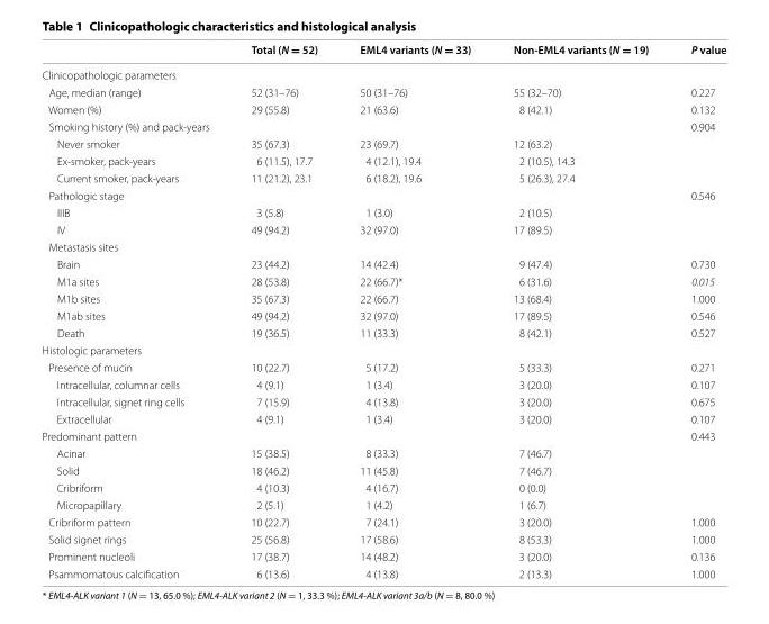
<table><thead><tr><td></td><td>Total (N = 52)</td><td>EML4 variants (N = 33)</td><td>Non‑EML4 variants (N = 19)</td><td>P value</td></tr></thead><tbody><tr><td colspan="5">Clinicopathologic parameters</td></tr><tr><td>Age, median (range)</td><td>52 (31–76)</td><td>50 (31–76)</td><td>55 (32–70)</td><td>0.227</td></tr><tr><td>Women (%)</td><td>29 (55.8)</td><td>21 (63.6)</td><td>8 (42.1)</td><td>0.132</td></tr><tr><td>Smoking history (%) and pack-years</td><td></td><td></td><td></td><td>0.904</td></tr><tr><td>Never smoker</td><td>35 (67.3)</td><td>23 (69.7)</td><td>12 (63.2)</td><td></td></tr><tr><td>Ex-smoker, pack-years</td><td>6 (11.5), 17.7</td><td>4 (12.1), 19.4</td><td>2 (10.5), 14.3</td><td></td></tr><tr><td>Current smoker, pack-years</td><td>11 (21.2), 23.1</td><td>6 (18.2), 19.6</td><td>5 (26.3), 27.4</td><td></td></tr><tr><td>Pathologic stage</td><td></td><td></td><td></td><td>0.546</td></tr><tr><td>IIIB</td><td>3 (5.8)</td><td>1 (3.0)</td><td>2 (10.5)</td><td></td></tr><tr><td>IV</td><td>49 (94.2)</td><td>32 (97.0)</td><td>17 (89.5)</td><td></td></tr><tr><td colspan="5">Metastasis sites</td></tr><tr><td>Brain</td><td>23 (44.2)</td><td>14 (42.4)</td><td>9 (47.4)</td><td>0.730</td></tr><tr><td>M1a sites</td><td>28 (53.8)</td><td>22 (66.7)*</td><td>6 (31.6)</td><td>0.015</td></tr><tr><td>M1b sites</td><td>35 (67.3)</td><td>22 (66.7)</td><td>13 (68.4)</td><td>1.000</td></tr><tr><td>M1ab sites</td><td>49 (94.2)</td><td>32 (97.0)</td><td>17 (89.5)</td><td>0.546</td></tr><tr><td>Death</td><td>19 (36.5)</td><td>11 (33.3)</td><td>8 (42.1)</td><td>0.527</td></tr><tr><td colspan="5">Histologic parameters</td></tr><tr><td>Presence of mucin</td><td>10 (22.7)</td><td>5 (17.2)</td><td>5 (33.3)</td><td>0.271</td></tr><tr><td>Intracellular, columnar cells</td><td>4 (9.1)</td><td>1 (3.4)</td><td>3 (20.0)</td><td>0.107</td></tr><tr><td>Intracellular, signet ring cells</td><td>7 (15.9)</td><td>4 (13.8)</td><td>3 (20.0)</td><td>0.675</td></tr><tr><td>Extracellular</td><td>4 (9.1)</td><td>1 (3.4)</td><td>3 (20.0)</td><td>0.107</td></tr><tr><td>Predominant pattern</td><td></td><td></td><td></td><td>0.443</td></tr><tr><td>Acinar</td><td>15 (38.5)</td><td>8 (33.3)</td><td>7 (46.7)</td><td></td></tr><tr><td>Solid</td><td>18 (46.2)</td><td>11 (45.8)</td><td>7 (46.7)</td><td></td></tr><tr><td>Cribriform</td><td>4 (10.3)</td><td>4 (16.7)</td><td>0 (0.0)</td><td></td></tr><tr><td>Micropapillary</td><td>2 (5.1)</td><td>1 (4.2)</td><td>1 (6.7)</td><td></td></tr><tr><td>Cribriform pattern</td><td>10 (22.7)</td><td>7 (24.1)</td><td>3 (20.0)</td><td>1.000</td></tr><tr><td>Solid signet rings</td><td>25 (56.8)</td><td>17 (58.6)</td><td>8 (53.3)</td><td>1.000</td></tr><tr><td>Prominent nucleoli</td><td>17 (38.7)</td><td>14 (48.2)</td><td>3 (20.0)</td><td>0.136</td></tr><tr><td>Psammomatous calcification</td><td>6 (13.6)</td><td>4 (13.8)</td><td>2 (13.3)</td><td>1.000</td></tr></tbody></table>